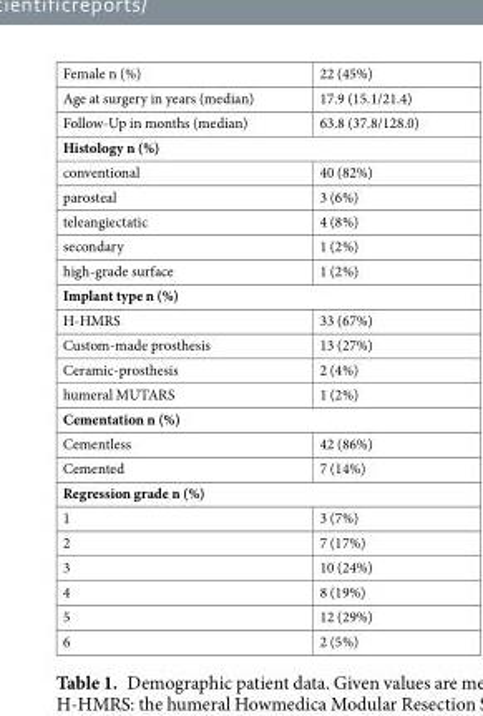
<table><tbody><tr><td>Female n (%)</td><td>22 (45%)</td></tr><tr><td>Age at surgery in years (median)</td><td>17.9 (15.1/21.4)</td></tr><tr><td>Follow-Up in months (median)</td><td>63.8 (37.8/128.0)</td></tr><tr><td colspan="2">Histology n (%)</td></tr><tr><td>conventional</td><td>40 (82%)</td></tr><tr><td>parosteal</td><td>3 (6%)</td></tr><tr><td>teleangiectatic</td><td>4 (8%)</td></tr><tr><td>secondary</td><td>1 (2%)</td></tr><tr><td>high-grade surface</td><td>1 (2%)</td></tr><tr><td colspan="2">Implant type n (%)</td></tr><tr><td>H-HMRS</td><td>33 (67%)</td></tr><tr><td>Custom-made prosthesis</td><td>13 (27%)</td></tr><tr><td>Ceramic-prosthesis</td><td>2 (4%)</td></tr><tr><td>humeral MUTARS</td><td>1 (2%)</td></tr><tr><td colspan="2">Cementation n (%)</td></tr><tr><td>Cementless</td><td>42 (86%)</td></tr><tr><td>Cemented</td><td>7 (14%)</td></tr><tr><td colspan="2">Regression grade n (%)</td></tr><tr><td>1</td><td>3 (7%)</td></tr><tr><td>2</td><td>7 (17%)</td></tr><tr><td>3</td><td>10 (24%)</td></tr><tr><td>4</td><td>8 (19%)</td></tr><tr><td>5</td><td>12 (29%)</td></tr><tr><td>6</td><td>2 (5%)</td></tr></tbody></table>